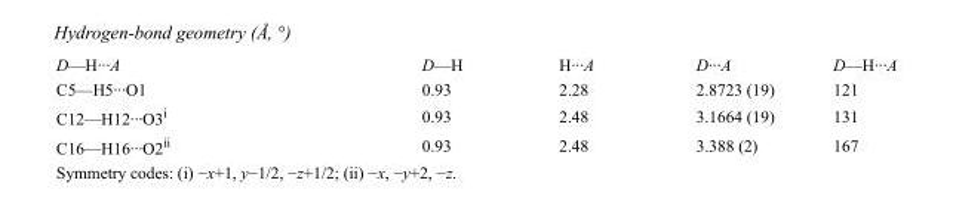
<table><tbody><tr><td>D—H···A</td><td>D—H</td><td>H···A</td><td>D···A</td><td>D—H···A</td></tr><tr><td>C5—H5···O1</td><td>0.93</td><td>2.28</td><td>2.8723 (19)</td><td>121</td></tr><tr><td>C12—H12···O3<sup>i</sup></td><td>0.93</td><td>2.48</td><td>3.1664 (19)</td><td>131</td></tr><tr><td>C16—H16···O2<sup>ii</sup></td><td>0.93</td><td>2.48</td><td>3.388 (2)</td><td>167</td></tr></tbody></table>